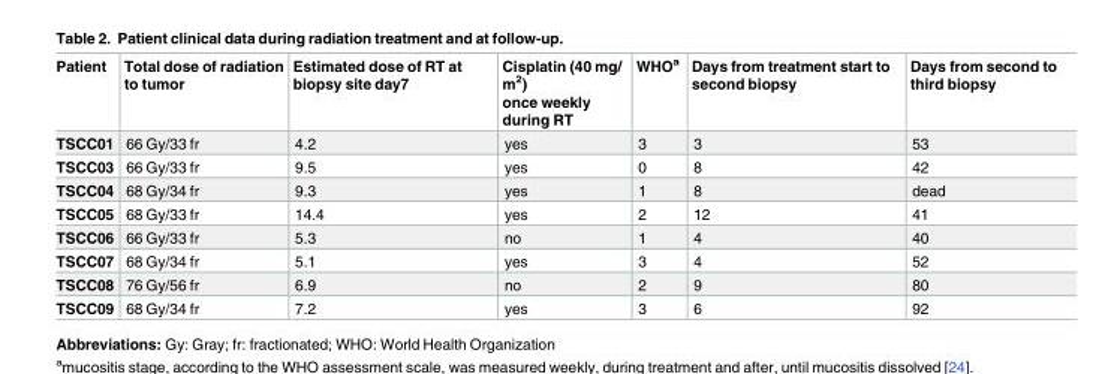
<table><thead><tr><td>Patient</td><td>Total dose of radiation to tumor</td><td>Estimated dose of RT at biopsy site day7</td><td>Cisplatin (40 mg/ m<sup>2</sup>) once weekly during RT</td><td>WHO<sup>a</sup></td><td>Days from treatment start to second biopsy</td><td>Days from second to third biopsy</td></tr></thead><tbody><tr><td>TSCC01</td><td>66 Gy/33 fr</td><td>4.2</td><td>yes</td><td>3</td><td>3</td><td>53</td></tr><tr><td>TSCC03</td><td>66 Gy/33 fr</td><td>9.5</td><td>yes</td><td>0</td><td>8</td><td>42</td></tr><tr><td>TSCC04</td><td>68 Gy/34 fr</td><td>9.3</td><td>yes</td><td>1</td><td>8</td><td>dead</td></tr><tr><td>TSCC05</td><td>68 Gy/33 fr</td><td>14.4</td><td>yes</td><td>2</td><td>12</td><td>41</td></tr><tr><td>TSCC06</td><td>66 Gy/33 fr</td><td>5.3</td><td>no</td><td>1</td><td>4</td><td>40</td></tr><tr><td>TSCC07</td><td>68 Gy/34 fr</td><td>5.1</td><td>yes</td><td>3</td><td>4</td><td>52</td></tr><tr><td>TSCC08</td><td>76 Gy/56 fr</td><td>6.9</td><td>no</td><td>2</td><td>9</td><td>80</td></tr><tr><td>TSCC09</td><td>68 Gy/34 fr</td><td>7.2</td><td>yes</td><td>3</td><td>6</td><td>92</td></tr></tbody></table>